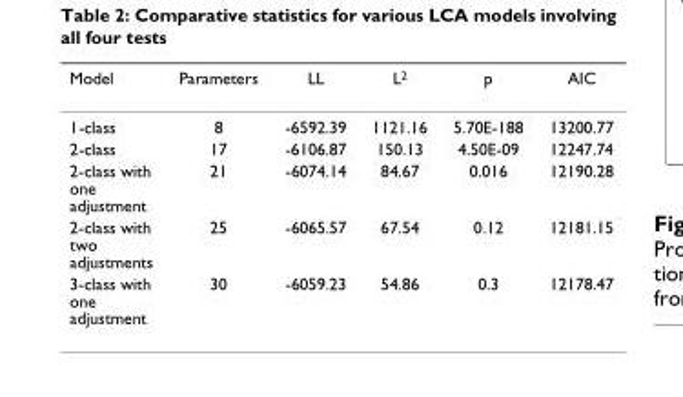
<table><thead><tr><td>Model</td><td>Parameters</td><td>LL</td><td>L<sup>2</sup></td><td>p</td><td>AIC</td></tr></thead><tbody><tr><td>1-class</td><td>8</td><td>-6592.39</td><td>1121.16</td><td>5.70E-188</td><td>13200.77</td></tr><tr><td>2-class</td><td>17</td><td>-6106.87</td><td>150.13</td><td>4.50E-09</td><td>12247.74</td></tr><tr><td>2-class with one adjustment</td><td>21</td><td>-6074.14</td><td>84.67</td><td>0.016</td><td>12190.28</td></tr><tr><td>2-class with two adjustments</td><td>25</td><td>-6065.57</td><td>67.54</td><td>0.12</td><td>12181.15</td></tr><tr><td>3-class with one adjustment</td><td>30</td><td>-6059.23</td><td>54.86</td><td>0.3</td><td>12178.47</td></tr></tbody></table>